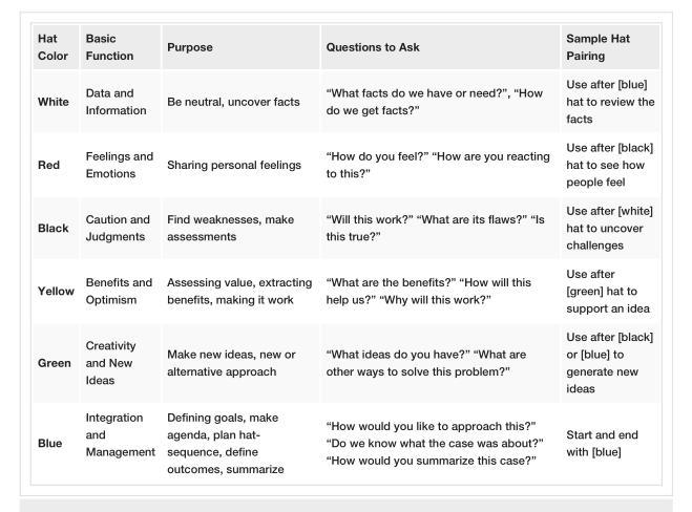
<table><tbody><tr><td>Hat Color</td><td>Basic Function</td><td>Purpose</td><td>Questions to Ask</td><td>Sample Hat Pairing</td></tr><tr><td>White</td><td>Data and Information</td><td>Be neutral, uncover facts</td><td>“What facts do we have or need?”, “How do we get facts?”</td><td>Use after [blue] hat to review the facts</td></tr><tr><td>Red</td><td>Feelings and Emotions</td><td>Sharing personal feelings</td><td>“How do you feel?” “How are you reacting to this?”</td><td>Use after [black] hat to see how people feel</td></tr><tr><td>Black</td><td>Caution and Judgments</td><td>Find weaknesses, make assessments</td><td>“Will this work?” “What are its flaws?” “Is this true?”</td><td>Use after [white] hat to uncover challenges</td></tr><tr><td>Yellow</td><td>Benefits and Optimism</td><td>Assessing value, extracting benefits, making it work</td><td>“What are the benefits?” “How will this help us?” “Why will this work?”</td><td>Use after [green] hat to support an idea</td></tr><tr><td>Green</td><td>Creativity and New Ideas</td><td>Make new ideas, new or alternative approach</td><td>“What ideas do you have?” “What are other ways to solve this problem?”</td><td>Use after [black] or [blue] to generate new ideas</td></tr><tr><td>Blue</td><td>Integration and Management</td><td>Defining goals, make agenda, plan hat- sequence, define outcomes, summarize</td><td>“How would you like to approach this?” “Do we know what the case was about?” “How would you summarize this case?”</td><td>Start and end with [blue]</td></tr></tbody></table>